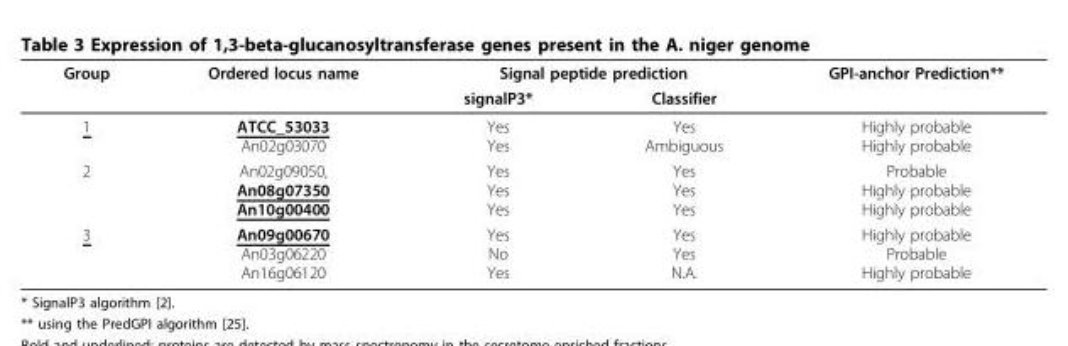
<table><thead><tr><td rowspan="2">Group</td><td rowspan="2">Ordered locus name</td><td colspan="2">Signal peptide prediction</td><td rowspan="2">GPI-anchor Prediction**</td></tr><tr><td>signalP3*</td><td>Classifier</td></tr></thead><tbody><tr><td>1</td><td>ATCC_53033 An02g03070</td><td>Yes Yes</td><td>Yes Ambiguous</td><td>Highly probable Highly probable</td></tr><tr><td>2</td><td>An02g09050, An08g07350 An10g00400</td><td>Yes Yes Yes</td><td>Yes Yes Yes</td><td>Probable Highly probable Highly probable</td></tr><tr><td>3</td><td>An09g00670 An03g06220 An16g06120</td><td>Yes No Yes</td><td>Yes Yes N.A.</td><td>Highly probable Probable Highly probable</td></tr></tbody></table>